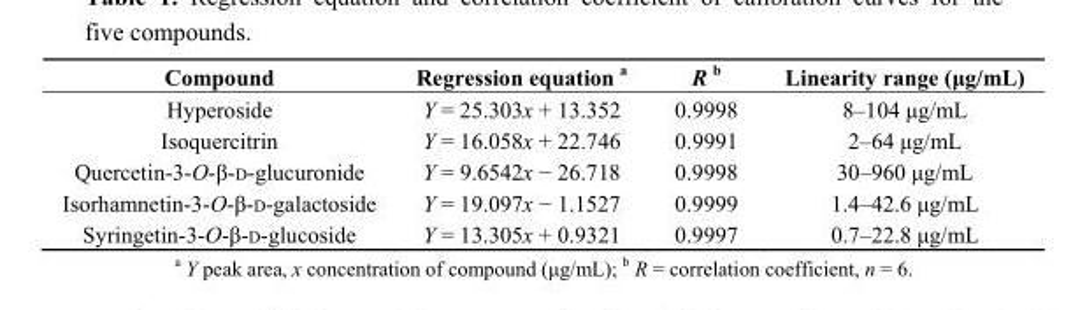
<table><thead><tr><td>Compound</td><td>Regression equation <sup>a</sup></td><td>R <sup>b</sup></td><td>Linearity range (μg/mL)</td></tr></thead><tbody><tr><td>Hyperoside</td><td>Y = 25.303x + 13.352</td><td>0.9998</td><td>8–104 μg/mL</td></tr><tr><td>Isoquercitrin</td><td>Y = 16.058x + 22.746</td><td>0.9991</td><td>2–64 μg/mL</td></tr><tr><td>Quercetin-3-O-β-D-glucuronide</td><td>Y = 9.6542x − 26.718</td><td>0.9998</td><td>30–960 μg/mL</td></tr><tr><td>Isorhamnetin-3-O-β-D-galactoside</td><td>Y = 19.097x − 1.1527</td><td>0.9999</td><td>1.4–42.6 μg/mL</td></tr><tr><td>Syringetin-3-O-β-D-glucoside</td><td>Y = 13.305x + 0.9321</td><td>0.9997</td><td>0.7–22.8 μg/mL</td></tr></tbody></table>